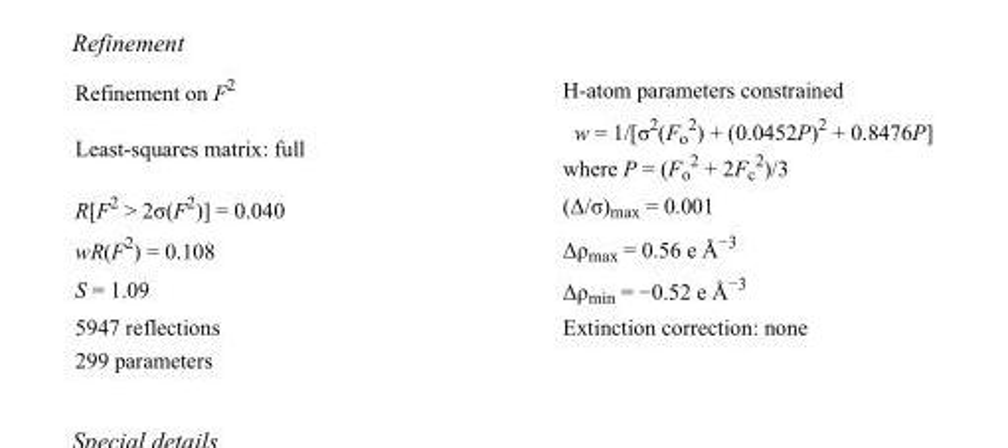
<table><tbody><tr><td>Refinement on F<sup>2</sup></td><td>H-atom parameters constrained</td></tr><tr><td>Least-squares matrix: full</td><td>w = 1/[σ<sup>2</sup>(F<sub>o</sub> <sup>2</sup>) + (0.0452P)<sup>2</sup> + 0.8476P] where P = (F<sub>o</sub> <sup>2</sup> + 2F<sub>c</sub> <sup>2</sup>)/3</td></tr><tr><td>R[F<sup>2</sup> &gt; 2σ(F<sup>2</sup>)] = 0.040</td><td>(Δ/σ)<sub>max</sub> = 0.001</td></tr><tr><td>wR(F<sup>2</sup>) = 0.108</td><td>Δρ<sub>max</sub> = 0.56 e Å<sup>−3</sup></td></tr><tr><td>S = 1.09</td><td>Δρ<sub>min</sub> = −0.52 e Å<sup>−3</sup></td></tr><tr><td>5947 reflections</td><td>Extinction correction: none</td></tr><tr><td>299 parameters</td><td></td></tr></tbody></table>